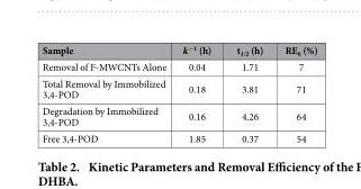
<table><thead><tr><td>Sample</td><td>k<sup>−1</sup> (h)</td><td>t<sub>1/2</sub> (h)</td><td>RE<sub>6</sub> (%)</td></tr></thead><tbody><tr><td>Removal of F-MWCNTs Alone</td><td>0.04</td><td>1.71</td><td>7</td></tr><tr><td>Total Removal by Immobilized 3,4-POD</td><td>0.18</td><td>3.81</td><td>71</td></tr><tr><td>Degradation by Immobilized 3,4-POD</td><td>0.16</td><td>4.26</td><td>64</td></tr><tr><td>Free 3,4-POD</td><td>1.85</td><td>0.37</td><td>54</td></tr></tbody></table>